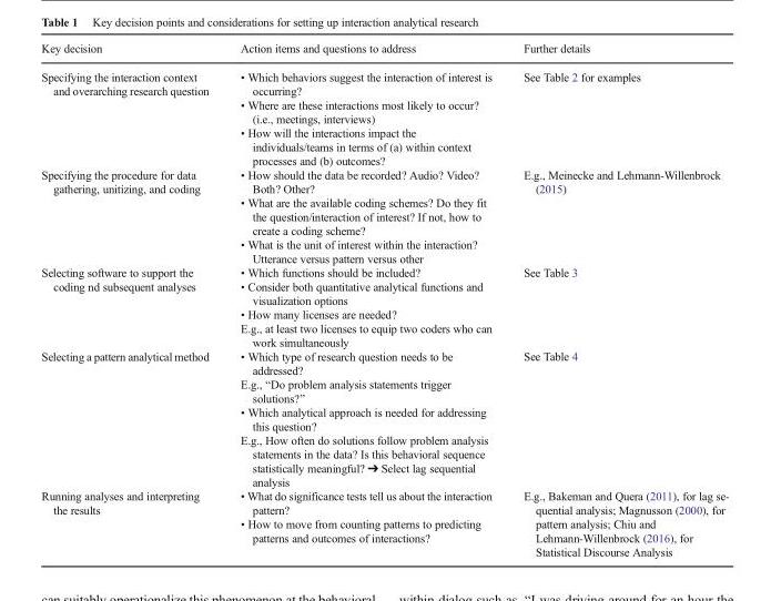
<table><thead><tr><td>Key decision</td><td>Action items and questions to address</td><td>Further details</td></tr></thead><tbody><tr><td>Specifying the interaction context and overarching research question</td><td>• Which behaviors suggest the interaction of interest is occurring? • Where are these interactions most likely to occur? (i.e., meetings, interviews) • How will the interactions impact the individuals/teams in terms of (a) within context processes and (b) outcomes?</td><td>See Table 2 for examples</td></tr><tr><td>Specifying the procedure for data gathering, unitizing, and coding</td><td>• How should the data be recorded? Audio? Video? Both? Other? • What are the available coding schemes? Do they fit the question/interaction of interest? If not, how to create a coding scheme? • What is the unit of interest within the interaction? Utterance versus pattern versus other</td><td>E.g., Meinecke and Lehmann-Willenbrock (2015)</td></tr><tr><td>Selecting software to support the coding nd subsequent analyses</td><td>• Which functions should be included? • Consider both quantitative analytical functions and visualization options • How many licenses are needed? E.g., at least two licenses to equip two coders who can work simultaneously</td><td>See Table 3</td></tr><tr><td>Selecting a pattern analytical method</td><td>• Which type of research question needs to be addressed? E.g., “Do problem analysis statements trigger solutions?” • Which analytical approach is needed for addressing this question? E.g., How often do solutions follow problem analysis statements in the data? Is this behavioral sequence statistically meaningful? ➔ Select lag sequential analysis</td><td>See Table 4</td></tr><tr><td>Running analyses and interpreting the results</td><td>• What do significance tests tell us about the interaction pattern? • How to move from counting patterns to predicting patterns and outcomes of interactions?</td><td>E.g., Bakeman and Quera (2011), for lag se- quential analysis; Magnusson (2000), for pattern analysis; Chiu and Lehmann-Willenbrock (2016), for Statistical Discourse Analysis</td></tr></tbody></table>